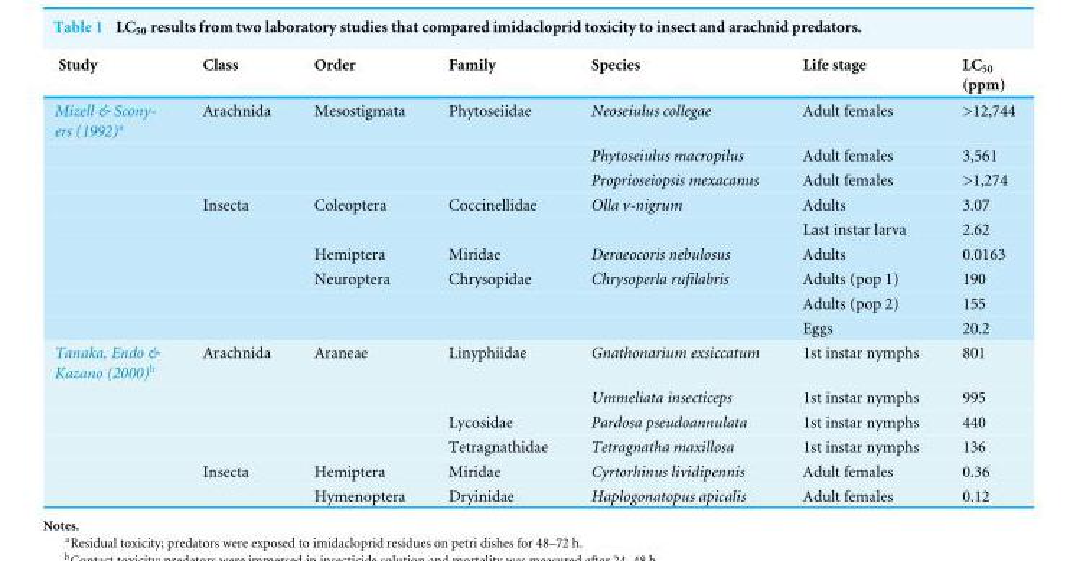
<table><thead><tr><td>Study</td><td>Class</td><td>Order</td><td>Family</td><td>Species</td><td>Life stage</td><td>LC<sub>50</sub> (ppm)</td></tr></thead><tbody><tr><td rowspan="9">Mizell &amp; Scony- ers (1992)a</td><td>Arachnida</td><td>Mesostigmata</td><td>Phytoseiidae</td><td>Neoseiulus collegae</td><td>Adult females</td><td>&gt;12,744</td></tr><tr><td></td><td></td><td></td><td>Phytoseiulus macropilus</td><td>Adult females</td><td>3,561</td></tr><tr><td></td><td></td><td></td><td>Proprioseiopsis mexacanus</td><td>Adult females</td><td>&gt;1,274</td></tr><tr><td>Insecta</td><td>Coleoptera</td><td>Coccinellidae</td><td>Olla v-nigrum</td><td>Adults</td><td>3.07</td></tr><tr><td></td><td></td><td></td><td></td><td>Last instar larva</td><td>2.62</td></tr><tr><td></td><td>Hemiptera</td><td>Miridae</td><td>Deraeocoris nebulosus</td><td>Adults</td><td>0.0163</td></tr><tr><td></td><td>Neuroptera</td><td>Chrysopidae</td><td>Chrysoperla rufilabris</td><td>Adults (pop 1)</td><td>190</td></tr><tr><td></td><td></td><td></td><td></td><td>Adults (pop 2)</td><td>155</td></tr><tr><td></td><td></td><td></td><td></td><td>Eggs</td><td>20.2</td></tr><tr><td rowspan="6">Tanaka, Endo &amp; Kazano (2000)<sup>b</sup></td><td>Arachnida</td><td>Araneae</td><td>Linyphiidae</td><td>Gnathonarium exsiccatum</td><td>1st instar nymphs</td><td>801</td></tr><tr><td></td><td></td><td></td><td>Ummeliata insecticeps</td><td>1st instar nymphs</td><td>995</td></tr><tr><td></td><td></td><td>Lycosidae</td><td>Pardosa pseudoannulata</td><td>1st instar nymphs</td><td>440</td></tr><tr><td></td><td></td><td>Tetragnathidae</td><td>Tetragnatha maxillosa</td><td>1st instar nymphs</td><td>136</td></tr><tr><td>Insecta</td><td>Hemiptera</td><td>Miridae</td><td>Cyrtorhinus lividipennis</td><td>Adult females</td><td>0.36</td></tr><tr><td></td><td>Hymenoptera</td><td>Dryinidae</td><td>Haplogonatopus apicalis</td><td>Adult females</td><td>0.12</td></tr></tbody></table>